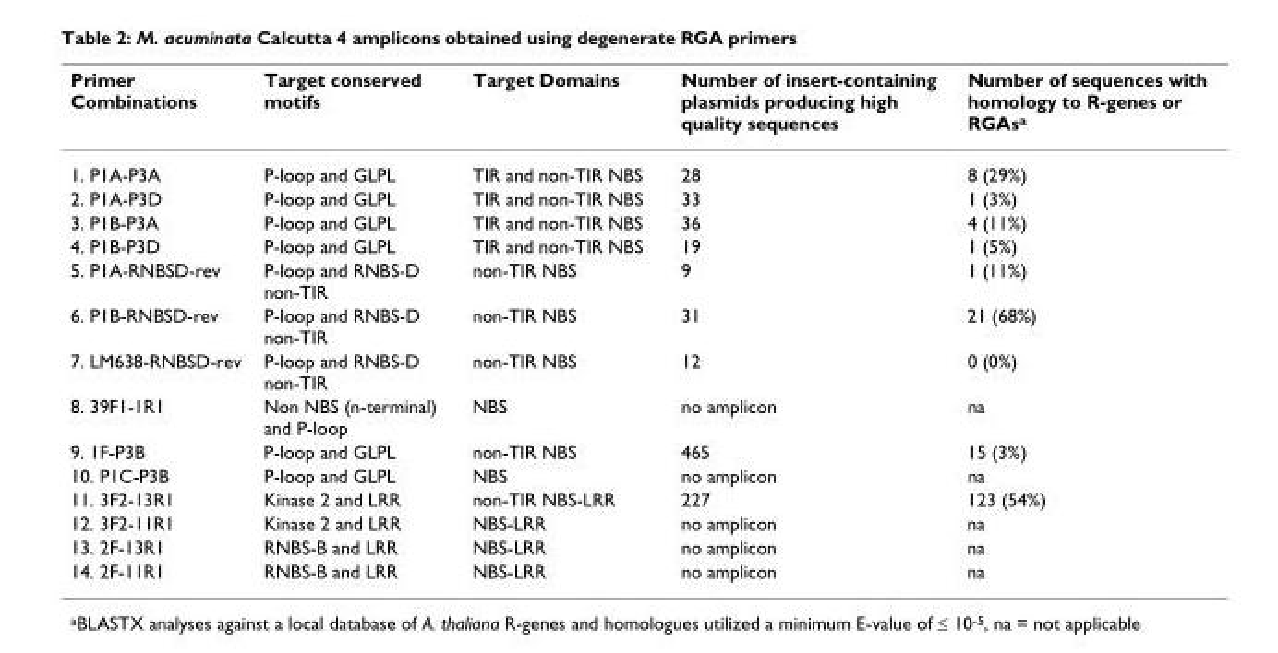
<table><thead><tr><td>Primer Combinations</td><td>Target conserved motifs</td><td>Target Domains</td><td>Number of insert-containing plasmids producing high quality sequences</td><td>Number of sequences with homology to R-genes or RGAs<sup>a</sup></td></tr></thead><tbody><tr><td>1. P1A-P3A</td><td>P-loop and GLPL</td><td>TIR and non-TIR NBS</td><td>28</td><td>8 (29%)</td></tr><tr><td>2. P1A-P3D</td><td>P-loop and GLPL</td><td>TIR and non-TIR NBS</td><td>33</td><td>1 (3%)</td></tr><tr><td>3. P1B-P3A</td><td>P-loop and GLPL</td><td>TIR and non-TIR NBS</td><td>36</td><td>4 (11%)</td></tr><tr><td>4. P1B-P3D</td><td>P-loop and GLPL</td><td>TIR and non-TIR NBS</td><td>19</td><td>1 (5%)</td></tr><tr><td>5. P1A-RNBSD-rev</td><td>P-loop and RNBS-D non-TIR</td><td>non-TIR NBS</td><td>9</td><td>1 (11%)</td></tr><tr><td>6. P1B-RNBSD-rev</td><td>P-loop and RNBS-D non-TIR</td><td>non-TIR NBS</td><td>31</td><td>21 (68%)</td></tr><tr><td>7. LM638-RNBSD-rev</td><td>P-loop and RNBS-D non-TIR</td><td>non-TIR NBS</td><td>12</td><td>0 (0%)</td></tr><tr><td>8. 39F1-1R1</td><td>Non NBS (n-terminal) and P-loop</td><td>NBS</td><td>no amplicon</td><td>na</td></tr><tr><td>9. 1F-P3B</td><td>P-loop and GLPL</td><td>non-TIR NBS</td><td>465</td><td>15 (3%)</td></tr><tr><td>10. P1C-P3B</td><td>P-loop and GLPL</td><td>NBS</td><td>no amplicon</td><td>na</td></tr><tr><td>11. 3F2-13R1</td><td>Kinase 2 and LRR</td><td>non-TIR NBS-LRR</td><td>227</td><td>123 (54%)</td></tr><tr><td>12. 3F2-11R1</td><td>Kinase 2 and LRR</td><td>NBS-LRR</td><td>no amplicon</td><td>na</td></tr><tr><td>13. 2F-13R1</td><td>RNBS-B and LRR</td><td>NBS-LRR</td><td>no amplicon</td><td>na</td></tr><tr><td>14. 2F-11R1</td><td>RNBS-B and LRR</td><td>NBS-LRR</td><td>no amplicon</td><td>na</td></tr></tbody></table>